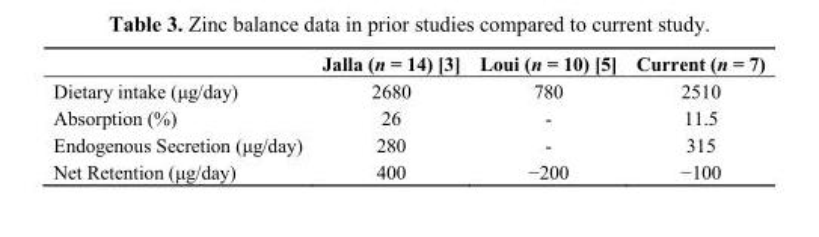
<table><thead><tr><td></td><td>Jalla (n = 14) [3]</td><td>Loui (n = 10) [5]</td><td>Current (n = 7)</td></tr></thead><tbody><tr><td>Dietary intake (μg/day)</td><td>2680</td><td>780</td><td>2510</td></tr><tr><td>Absorption (%)</td><td>26</td><td>-</td><td>11.5</td></tr><tr><td>Endogenous Secretion (μg/day)</td><td>280</td><td>-</td><td>315</td></tr><tr><td>Net Retention (μg/day)</td><td>400</td><td>−200</td><td>−100</td></tr></tbody></table>